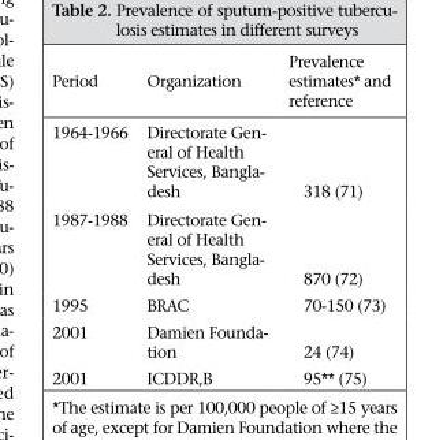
<table><thead><tr><td>Period</td><td>Organization</td><td>Prevalence estimates* and reference</td></tr></thead><tbody><tr><td>1964-1966</td><td>Directorate Gen- eral of Health Services, Bangla- desh</td><td>318 (71)</td></tr><tr><td>1987-1988</td><td>Directorate Gen- eral of Health Services, Bangla- desh</td><td>870 (72)</td></tr><tr><td>1995</td><td>BRAC</td><td>70-150 (73)</td></tr><tr><td>2001</td><td>Damien Founda- tion</td><td>24 (74)</td></tr><tr><td>2001</td><td>ICDDR,B</td><td>95** (75)</td></tr></tbody></table>